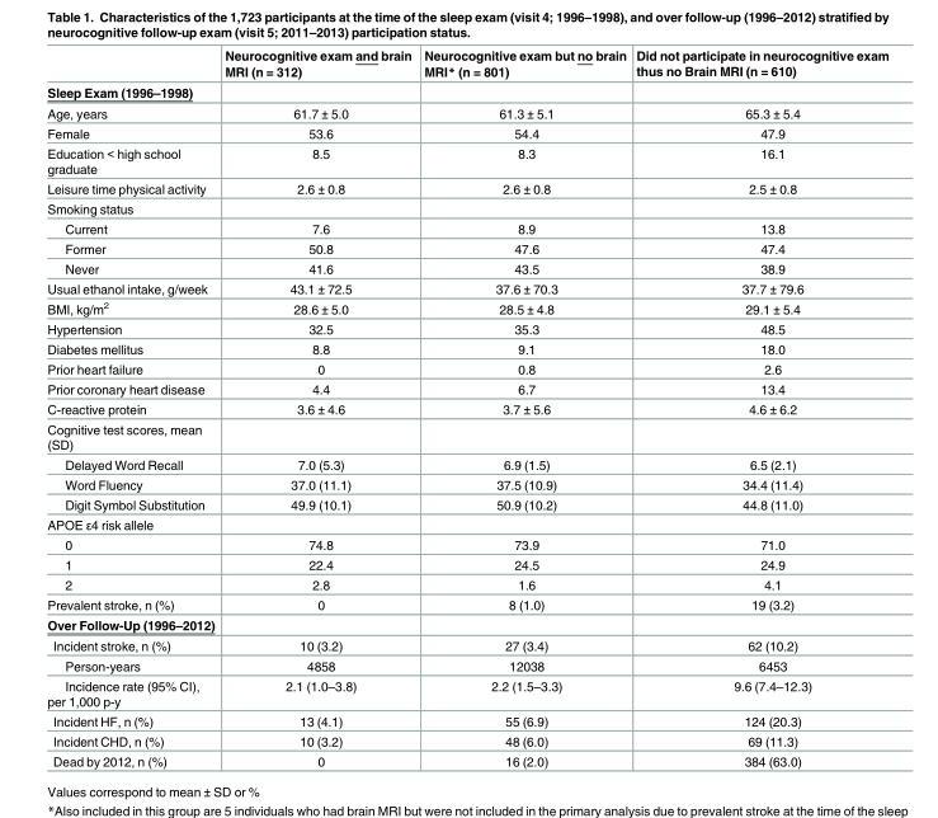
<table><thead><tr><td></td><td>Neurocognitive exam and brain MRI (n = 312)</td><td>Neurocognitive exam but no brain MRI* (n = 801)</td><td>Did not participate in neurocognitive exam thus no Brain MRI (n = 610)</td></tr></thead><tbody><tr><td colspan="4">Sleep Exam (1996–1998)</td></tr><tr><td>Age, years</td><td>61.7 ± 5.0</td><td>61.3 ± 5.1</td><td>65.3 ± 5.4</td></tr><tr><td>Female</td><td>53.6</td><td>54.4</td><td>47.9</td></tr><tr><td>Education &lt; high school graduate</td><td>8.5</td><td>8.3</td><td>16.1</td></tr><tr><td>Leisure time physical activity</td><td>2.6 ± 0.8</td><td>2.6 ± 0.8</td><td>2.5 ± 0.8</td></tr><tr><td colspan="4">Smoking status</td></tr><tr><td>Current</td><td>7.6</td><td>8.9</td><td>13.8</td></tr><tr><td>Former</td><td>50.8</td><td>47.6</td><td>47.4</td></tr><tr><td>Never</td><td>41.6</td><td>43.5</td><td>38.9</td></tr><tr><td>Usual ethanol intake, g/week</td><td>43.1 ± 72.5</td><td>37.6 ± 70.3</td><td>37.7 ± 79.6</td></tr><tr><td>BMI, kg/m<sup>2</sup></td><td>28.6 ± 5.0</td><td>28.5 ± 4.8</td><td>29.1 ± 5.4</td></tr><tr><td>Hypertension</td><td>32.5</td><td>35.3</td><td>48.5</td></tr><tr><td>Diabetes mellitus</td><td>8.8</td><td>9.1</td><td>18.0</td></tr><tr><td>Prior heart failure</td><td>0</td><td>0.8</td><td>2.6</td></tr><tr><td>Prior coronary heart disease</td><td>4.4</td><td>6.7</td><td>13.4</td></tr><tr><td>C-reactive protein</td><td>3.6 ± 4.6</td><td>3.7 ± 5.6</td><td>4.6 ± 6.2</td></tr><tr><td colspan="4">Cognitive test scores, mean (SD)</td></tr><tr><td>Delayed Word Recall</td><td>7.0 (5.3)</td><td>6.9 (1.5)</td><td>6.5 (2.1)</td></tr><tr><td>Word Fluency</td><td>37.0 (11.1)</td><td>37.5 (10.9)</td><td>34.4 (11.4)</td></tr><tr><td>Digit Symbol Substitution</td><td>49.9 (10.1)</td><td>50.9 (10.2)</td><td>44.8 (11.0)</td></tr><tr><td colspan="4">APOE ε4 risk allele</td></tr><tr><td>0</td><td>74.8</td><td>73.9</td><td>71.0</td></tr><tr><td>1</td><td>22.4</td><td>24.5</td><td>24.9</td></tr><tr><td>2</td><td>2.8</td><td>1.6</td><td>4.1</td></tr><tr><td>Prevalent stroke, n (%)</td><td>0</td><td>8 (1.0)</td><td>19 (3.2)</td></tr><tr><td colspan="4">Over Follow-Up (1996–2012)</td></tr><tr><td>Incident stroke, n (%)</td><td>10 (3.2)</td><td>27 (3.4)</td><td>62 (10.2)</td></tr><tr><td>Person-years</td><td>4858</td><td>12038</td><td>6453</td></tr><tr><td>Incidence rate (95% CI), per 1,000 p-y</td><td>2.1 (1.0–3.8)</td><td>2.2 (1.5–3.3)</td><td>9.6 (7.4–12.3)</td></tr><tr><td>Incident HF, n (%)</td><td>13 (4.1)</td><td>55 (6.9)</td><td>124 (20.3)</td></tr><tr><td>Incident CHD, n (%)</td><td>10 (3.2)</td><td>48 (6.0)</td><td>69 (11.3)</td></tr><tr><td>Dead by 2012, n (%)</td><td>0</td><td>16 (2.0)</td><td>384 (63.0)</td></tr></tbody></table>